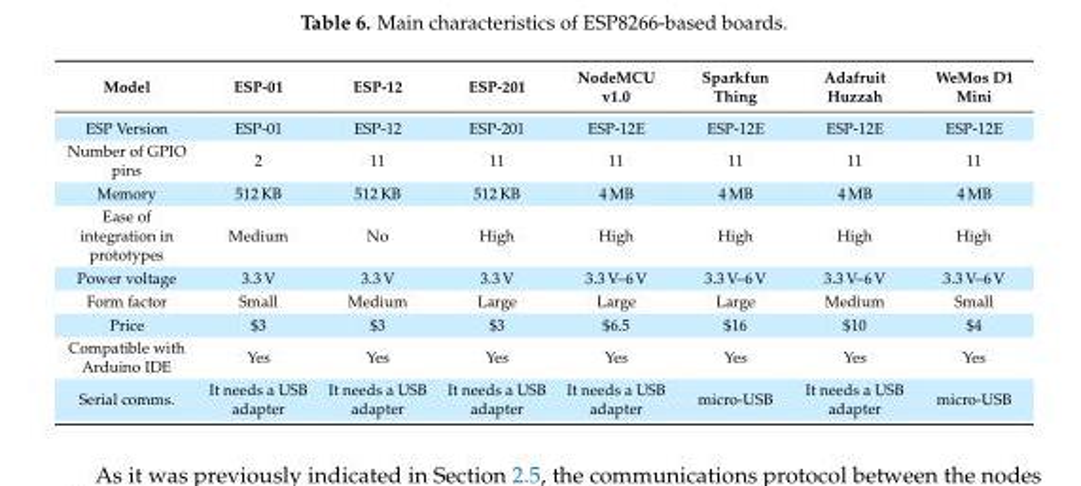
<table><thead><tr><td>Model</td><td>ESP-01</td><td>ESP-12</td><td>ESP-201</td><td>NodeMCU v1.0</td><td>Sparkfun Thing</td><td>Adafruit Huzzah</td><td>WeMos D1 Mini</td></tr></thead><tbody><tr><td>ESP Version</td><td>ESP-01</td><td>ESP-12</td><td>ESP-201</td><td>ESP-12E</td><td>ESP-12E</td><td>ESP-12E</td><td>ESP-12E</td></tr><tr><td>Number of GPIO pins</td><td>2</td><td>11</td><td>11</td><td>11</td><td>11</td><td>11</td><td>11</td></tr><tr><td>Memory</td><td>512 KB</td><td>512 KB</td><td>512 KB</td><td>4 MB</td><td>4 MB</td><td>4 MB</td><td>4 MB</td></tr><tr><td>Ease of integration in prototypes</td><td>Medium</td><td>No</td><td>High</td><td>High</td><td>High</td><td>High</td><td>High</td></tr><tr><td>Power voltage</td><td>3.3 V</td><td>3.3 V</td><td>3.3 V</td><td>3.3 V–6 V</td><td>3.3 V–6 V</td><td>3.3 V–6 V</td><td>3.3 V–6 V</td></tr><tr><td>Form factor</td><td>Small</td><td>Medium</td><td>Large</td><td>Large</td><td>Large</td><td>Medium</td><td>Small</td></tr><tr><td>Price</td><td>$3</td><td>$3</td><td>$3</td><td>$6.5</td><td>$16</td><td>$10</td><td>$4</td></tr><tr><td>Compatible with Arduino IDE</td><td>Yes</td><td>Yes</td><td>Yes</td><td>Yes</td><td>Yes</td><td>Yes</td><td>Yes</td></tr><tr><td>Serial comms.</td><td>It needs a USB adapter</td><td>It needs a USB adapter</td><td>It needs a USB adapter</td><td>It needs a USB adapter</td><td>micro-USB</td><td>It needs a USB adapter</td><td>micro-USB</td></tr></tbody></table>